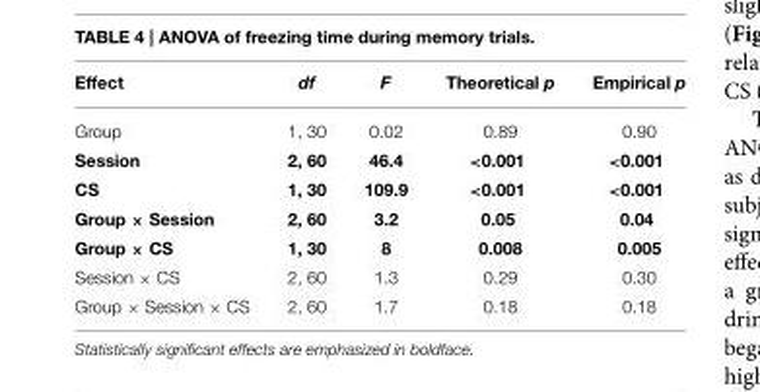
<table><thead><tr><td>Effect</td><td>df</td><td>F</td><td>Theoretical p</td><td>Empirical p</td></tr></thead><tbody><tr><td>Group</td><td>1, 30</td><td>0.02</td><td>0.89</td><td>0.90</td></tr><tr><td>Session</td><td>2, 60</td><td>46.4</td><td>&lt;0.001</td><td>&lt;0.001</td></tr><tr><td>CS</td><td>1, 30</td><td>109.9</td><td>&lt;0.001</td><td>&lt;0.001</td></tr><tr><td>Group × Session</td><td>2, 60</td><td>3.2</td><td>0.05</td><td>0.04</td></tr><tr><td>Group × CS</td><td>1, 30</td><td>8</td><td>0.008</td><td>0.005</td></tr><tr><td>Session × CS</td><td>2, 60</td><td>1.3</td><td>0.29</td><td>0.30</td></tr><tr><td>Group × Session × CS</td><td>2, 60</td><td>1.7</td><td>0.18</td><td>0.18</td></tr></tbody></table>